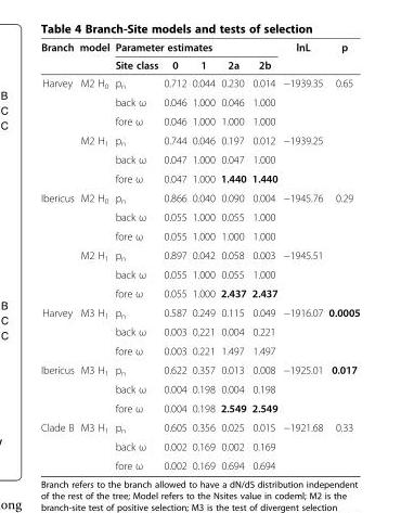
<table><thead><tr><td rowspan="2">Branch</td><td rowspan="2">model</td><td colspan="5">Parameter estimates</td><td rowspan="2">lnL</td><td rowspan="2">p</td></tr><tr><td>Site class</td><td>0</td><td>1</td><td>2a</td><td>2b</td></tr></thead><tbody><tr><td rowspan="6">Harvey</td><td rowspan="3">M2 H<sub>0</sub></td><td>p<sub>n</sub></td><td>0.712</td><td>0.044</td><td>0.230</td><td>0.014</td><td rowspan="3">−1939.35</td><td rowspan="6">0.65</td></tr><tr><td>back ω</td><td>0.046</td><td>1.000</td><td>0.046</td><td>1.000</td></tr><tr><td>fore ω</td><td>0.046</td><td>1.000</td><td>1.000</td><td>1.000</td></tr><tr><td rowspan="3">M2 H<sub>1</sub></td><td>p<sub>n</sub></td><td>0.744</td><td>0.046</td><td>0.197</td><td>0.012</td><td rowspan="3">−1939.25</td></tr><tr><td>back ω</td><td>0.047</td><td>1.000</td><td>0.047</td><td>1.000</td></tr><tr><td>fore ω</td><td>0.047</td><td>1.000</td><td>1.440</td><td>1.440</td></tr><tr><td rowspan="6">Ibericus</td><td rowspan="3">M2 H<sub>0</sub></td><td>p<sub>n</sub></td><td>0.866</td><td>0.040</td><td>0.090</td><td>0.004</td><td rowspan="3">−1945.76</td><td rowspan="6">0.29</td></tr><tr><td>back ω</td><td>0.055</td><td>1.000</td><td>0.055</td><td>1.000</td></tr><tr><td>fore ω</td><td>0.055</td><td>1.000</td><td>1.000</td><td>1.000</td></tr><tr><td rowspan="3">M2 H<sub>1</sub></td><td>p<sub>n</sub></td><td>0.897</td><td>0.042</td><td>0.058</td><td>0.003</td><td rowspan="3">−1945.51</td></tr><tr><td>back ω</td><td>0.055</td><td>1.000</td><td>0.055</td><td>1.000</td></tr><tr><td>fore ω</td><td>0.055</td><td>1.000</td><td>2.437</td><td>2.437</td></tr><tr><td rowspan="3">Harvey</td><td rowspan="3">M3 H<sub>1</sub></td><td>p<sub>n</sub></td><td>0.587</td><td>0.249</td><td>0.115</td><td>0.049</td><td rowspan="3">−1916.07</td><td rowspan="3">0.0005</td></tr><tr><td>back ω</td><td>0.003</td><td>0.221</td><td>0.004</td><td>0.221</td></tr><tr><td>fore ω</td><td>0.003</td><td>0.221</td><td>1.497</td><td>1.497</td></tr><tr><td rowspan="3">Ibericus</td><td rowspan="3">M3 H<sub>1</sub></td><td>p<sub>n</sub></td><td>0.622</td><td>0.357</td><td>0.013</td><td>0.008</td><td rowspan="3">−1925.01</td><td rowspan="3">0.017</td></tr><tr><td>back ω</td><td>0.004</td><td>0.198</td><td>0.004</td><td>0.198</td></tr><tr><td>fore ω</td><td>0.004</td><td>0.198</td><td>2.549</td><td>2.549</td></tr><tr><td rowspan="3">Clade B</td><td rowspan="2">M3 H<sub>1</sub></td><td>p<sub>n</sub></td><td>0.605</td><td>0.356</td><td>0.025</td><td>0.015</td><td rowspan="2">−1921.68</td><td rowspan="2">0.33</td></tr><tr><td>back ω</td><td>0.002</td><td>0.169</td><td>0.002</td><td>0.169</td></tr><tr><td></td><td>fore ω</td><td>0.002</td><td>0.169</td><td>0.694</td><td>0.694</td><td></td><td></td></tr></tbody></table>